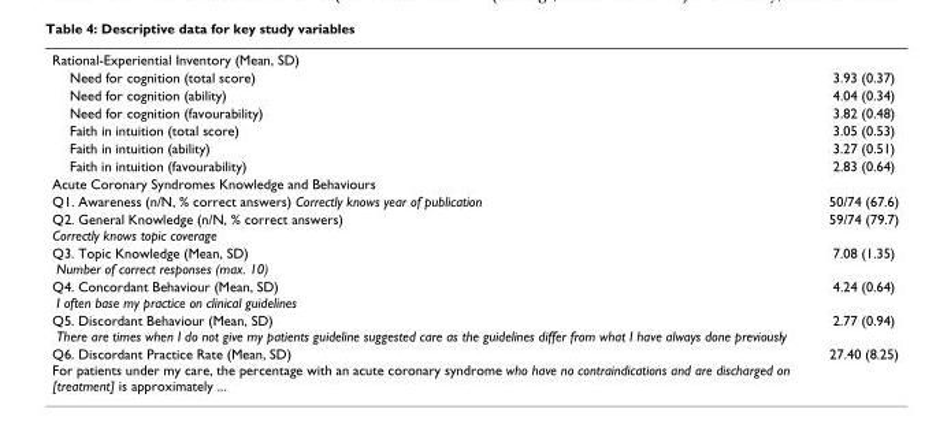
<table><tbody><tr><td colspan="2">Rational-Experiential Inventory (Mean, SD)</td></tr><tr><td>Need for cognition (total score)</td><td>3.93 (0.37)</td></tr><tr><td>Need for cognition (ability)</td><td>4.04 (0.34)</td></tr><tr><td>Need for cognition (favourability)</td><td>3.82 (0.48)</td></tr><tr><td>Faith in intuition (total score)</td><td>3.05 (0.53)</td></tr><tr><td>Faith in intuition (ability)</td><td>3.27 (0.51)</td></tr><tr><td>Faith in intuition (favourability)</td><td>2.83 (0.64)</td></tr><tr><td colspan="2">Acute Coronary Syndromes Knowledge and Behaviours</td></tr><tr><td>Q1. Awareness (n/N, % correct answers) Correctly knows year of publication</td><td>50/74 (67.6)</td></tr><tr><td>Q2. General Knowledge (n/N, % correct answers) Correctly knows topic coverage</td><td>59/74 (79.7)</td></tr><tr><td>Q3. Topic Knowledge (Mean, SD) Number of correct responses (max. 10)</td><td>7.08 (1.35)</td></tr><tr><td>Q4. Concordant Behaviour (Mean, SD) I often base my practice on clinical guidelines</td><td>4.24 (0.64)</td></tr><tr><td>Q5. Discordant Behaviour (Mean, SD) There are times when I do not give my patients guideline suggested care as the guidelines differ from what I have always done previously</td><td>2.77 (0.94)</td></tr><tr><td>Q6. Discordant Practice Rate (Mean, SD) For patients under my care, the percentage with an acute coronary syndrome who have no contraindications and are discharged on [treatment] is approximately ...</td><td>27.40 (8.25)</td></tr></tbody></table>